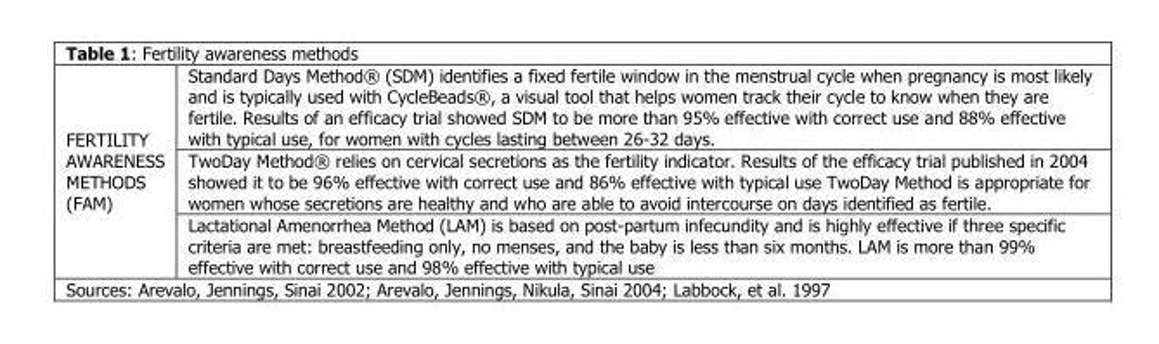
<table><tbody><tr><td rowspan="3">FERTILITY AWARENESS METHODS (FAM)</td><td>Standard Days Method<sup>®</sup> (SDM) identifies a fixed fertile window in the menstrual cycle when pregnancy is most likely and is typically used with CycleBeads<sup>®</sup>, a visual tool that helps women track their cycle to know when they are fertile. Results of an efficacy trial showed SDM to be more than 95% effective with correct use and 88% effective with typical use, for women with cycles lasting between 26-32 days.</td></tr><tr><td>TwoDay Method<sup>®</sup> relies on cervical secretions as the fertility indicator. Results of the efficacy trial published in 2004 showed it to be 96% effective with correct use and 86% effective with typical use TwoDay Method is appropriate for women whose secretions are healthy and who are able to avoid intercourse on days identified as fertile.</td></tr><tr><td>Lactational Amenorrhea Method (LAM) is based on post-partum infecundity and is highly effective if three specific criteria are met: breastfeeding only, no menses, and the baby is less than six months. LAM is more than 99% effective with correct use and 98% effective with typical use</td></tr></tbody></table>